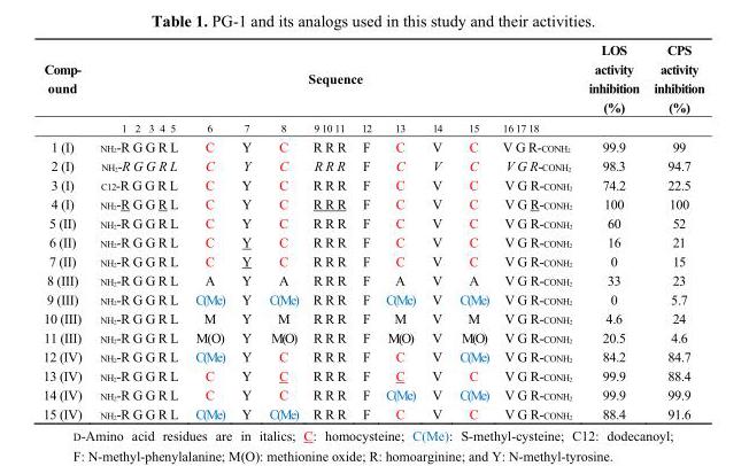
<table><thead><tr><td rowspan="2">Comp- ound</td><td colspan="10">Sequence</td><td rowspan="2">LOS activity inhibition (%)</td><td rowspan="2">CPS activity inhibition (%)</td></tr><tr><td>1 2 3 4 5</td><td>6</td><td>7</td><td>8</td><td>9 10 11</td><td>12</td><td>13</td><td>14</td><td>15</td><td>16 17 18</td></tr></thead><tbody><tr><td>1 (I)</td><td>NH<sub>2</sub>-R G G R L</td><td>C</td><td>Y</td><td>C</td><td>R R R</td><td>F</td><td>C</td><td>V</td><td>C</td><td>V G R-CONH<sub>2</sub></td><td>99.9</td><td>99</td></tr><tr><td>2 (I)</td><td>NH<sub>2</sub>-R G G R L</td><td>C</td><td>Y</td><td>C</td><td>R R R</td><td>F</td><td>C</td><td>V</td><td>C</td><td>V G R-CONH<sub>2</sub></td><td>98.3</td><td>94.7</td></tr><tr><td>3 (I)</td><td>C12-R G G R L</td><td>C</td><td>Y</td><td>C</td><td>R R R</td><td>F</td><td>C</td><td>V</td><td>C</td><td>V G R-CONH<sub>2</sub></td><td>74.2</td><td>22.5</td></tr><tr><td>4 (I)</td><td>NH<sub>2</sub>-R G G R L</td><td>C</td><td>Y</td><td>C</td><td>R R R</td><td>F</td><td>C</td><td>V</td><td>C</td><td>V G R-CONH<sub>2</sub></td><td>100</td><td>100</td></tr><tr><td>5 (II)</td><td>NH<sub>2</sub>-R G G R L</td><td>C</td><td>Y</td><td>C</td><td>R R R</td><td>F</td><td>C</td><td>V</td><td>C</td><td>V G R-CONH<sub>2</sub></td><td>60</td><td>52</td></tr><tr><td>6 (II)</td><td>NH<sub>2</sub>-R G G R L</td><td>C</td><td>Y</td><td>C</td><td>R R R</td><td>F</td><td>C</td><td>V</td><td>C</td><td>V G R-CONH<sub>2</sub></td><td>16</td><td>21</td></tr><tr><td>7 (II)</td><td>NH<sub>2</sub>-R G G R L</td><td>C</td><td>Y</td><td>C</td><td>R R R</td><td>F</td><td>C</td><td>V</td><td>C</td><td>V G R-CONH<sub>2</sub></td><td>0</td><td>15</td></tr><tr><td>8 (III)</td><td>NH<sub>2</sub>-R G G R L</td><td>A</td><td>Y</td><td>A</td><td>R R R</td><td>F</td><td>A</td><td>V</td><td>A</td><td>V G R-CONH<sub>2</sub></td><td>33</td><td>23</td></tr><tr><td>9 (III)</td><td>NH<sub>2</sub>-R G G R L</td><td>C(Me)</td><td>Y</td><td>C(Me)</td><td>R R R</td><td>F</td><td>C(Me)</td><td>V</td><td>C(Me)</td><td>V G R-CONH<sub>2</sub></td><td>0</td><td>5.7</td></tr><tr><td>10 (III)</td><td>NH<sub>2</sub>-R G G R L</td><td>M</td><td>Y</td><td>M</td><td>R R R</td><td>F</td><td>M</td><td>V</td><td>M</td><td>V G R-CONH<sub>2</sub></td><td>4.6</td><td>24</td></tr><tr><td>11 (III)</td><td>NH<sub>2</sub>-R G G R L</td><td>M(O)</td><td>Y</td><td>M(O)</td><td>R R R</td><td>F</td><td>M(O)</td><td>V</td><td>M(O)</td><td>V G R-CONH<sub>2</sub></td><td>20.5</td><td>4.6</td></tr><tr><td>12 (IV)</td><td>NH<sub>2</sub>-R G G R L</td><td>C(Me)</td><td>Y</td><td>C</td><td>R R R</td><td>F</td><td>C</td><td>V</td><td>C(Me)</td><td>V G R-CONH<sub>2</sub></td><td>84.2</td><td>84.7</td></tr><tr><td>13 (IV)</td><td>NH<sub>2</sub>-R G G R L</td><td>C</td><td>Y</td><td>C</td><td>R R R</td><td>F</td><td>C</td><td>V</td><td>C</td><td>V G R-CONH<sub>2</sub></td><td>99.9</td><td>88.4</td></tr><tr><td>14 (IV)</td><td>NH<sub>2</sub>-R G G R L</td><td>C</td><td>Y</td><td>C</td><td>R R R</td><td>F</td><td>C(Me)</td><td>V</td><td>C(Me)</td><td>V G R-CONH<sub>2</sub></td><td>99.9</td><td>99.9</td></tr><tr><td>15 (IV)</td><td>NH<sub>2</sub>-R G G R L</td><td>C(Me)</td><td>Y</td><td>C(Me)</td><td>R R R</td><td>F</td><td>C</td><td>V</td><td>C</td><td>V G R-CONH<sub>2</sub></td><td>88.4</td><td>91.6</td></tr></tbody></table>